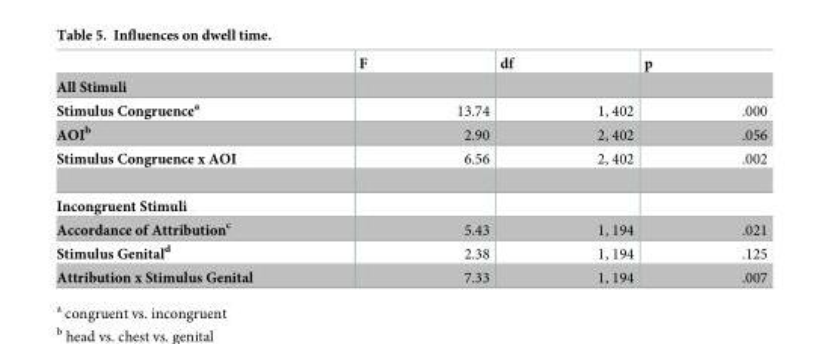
<table><thead><tr><td></td><td>F</td><td>df</td><td>p</td></tr></thead><tbody><tr><td colspan="4">All Stimuli</td></tr><tr><td>Stimulus Congruence<sup>a</sup></td><td>13.74</td><td>1, 402</td><td>.000</td></tr><tr><td>AOI<sup>b</sup></td><td>2.90</td><td>2, 402</td><td>.056</td></tr><tr><td>Stimulus Congruence x AOI</td><td>6.56</td><td>2, 402</td><td>.002</td></tr><tr><td colspan="4">Incongruent Stimuli</td></tr><tr><td>Accordance of Attribution<sup>c</sup></td><td>5.43</td><td>1, 194</td><td>.021</td></tr><tr><td>Stimulus Genital<sup>d</sup></td><td>2.38</td><td>1, 194</td><td>.125</td></tr><tr><td>Attribution x Stimulus Genital</td><td>7.33</td><td>1, 194</td><td>.007</td></tr></tbody></table>